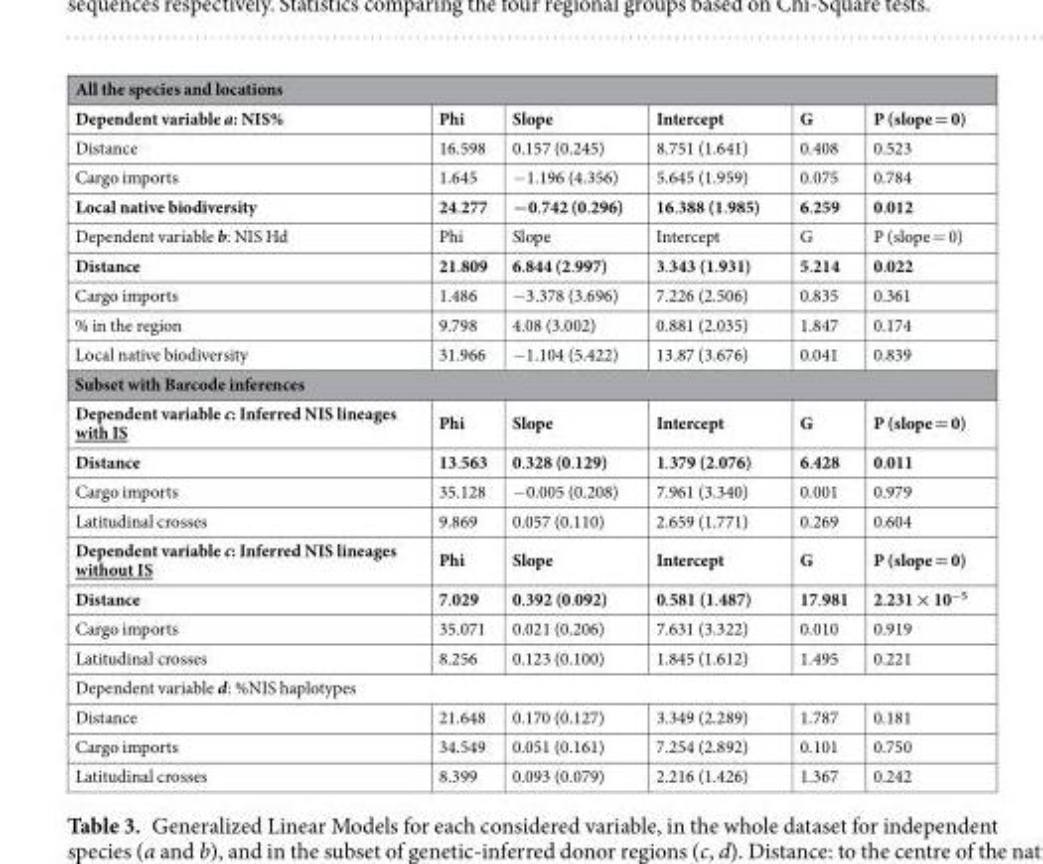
<table><thead><tr><td colspan="6">All the species and locations</td></tr><tr><td>Dependent variable a: NIS%</td><td>Phi</td><td>Slope</td><td>Intercept</td><td>G</td><td>P (slope = 0)</td></tr></thead><tbody><tr><td>Distance</td><td>16.598</td><td>0.157 (0.245)</td><td>8.751 (1.641)</td><td>0.408</td><td>0.523</td></tr><tr><td>Cargo imports</td><td>1.645</td><td>−1.196 (4.356)</td><td>5.645 (1.959)</td><td>0.075</td><td>0.784</td></tr><tr><td>Local native biodiversity</td><td>24.277</td><td>−0.742 (0.296)</td><td>16.388 (1.985)</td><td>6.259</td><td>0.012</td></tr><tr><td>Dependent variable b: NIS Hd</td><td>Phi</td><td>Slope</td><td>Intercept</td><td>G</td><td>P (slope = 0)</td></tr><tr><td>Distance</td><td>21.809</td><td>6.844 (2.997)</td><td>3.343 (1.931)</td><td>5.214</td><td>0.022</td></tr><tr><td>Cargo imports</td><td>1.486</td><td>−3.378 (3.696)</td><td>7.226 (2.506)</td><td>0.835</td><td>0.361</td></tr><tr><td>% in the region</td><td>9.798</td><td>4.08 (3.002)</td><td>0.881 (2.035)</td><td>1.847</td><td>0.174</td></tr><tr><td>Local native biodiversity</td><td>31.966</td><td>−1.104 (5.422)</td><td>13.87 (3.676)</td><td>0.041</td><td>0.839</td></tr><tr><td colspan="6">Subset with Barcode inferences</td></tr><tr><td>Dependent variable c: Inferred NIS lineages with IS</td><td>Phi</td><td>Slope</td><td>Intercept</td><td>G</td><td>P (slope = 0)</td></tr><tr><td>Distance</td><td>13.563</td><td>0.328 (0.129)</td><td>1.379 (2.076)</td><td>6.428</td><td>0.011</td></tr><tr><td>Cargo imports</td><td>35.128</td><td>−0.005 (0.208)</td><td>7.961 (3.340)</td><td>0.001</td><td>0.979</td></tr><tr><td>Latitudinal crosses</td><td>9.869</td><td>0.057 (0.110)</td><td>2.659 (1.771)</td><td>0.269</td><td>0.604</td></tr><tr><td>Dependent variable c: Inferred NIS lineages without IS</td><td>Phi</td><td>Slope</td><td>Intercept</td><td>G</td><td>P (slope = 0)</td></tr><tr><td>Distance</td><td>7.029</td><td>0.392 (0.092)</td><td>0.581 (1.487)</td><td>17.981</td><td>2.231 × 10<sup>−5</sup></td></tr><tr><td>Cargo imports</td><td>35.071</td><td>0.021 (0.206)</td><td>7.631 (3.322)</td><td>0.010</td><td>0.919</td></tr><tr><td>Latitudinal crosses</td><td>8.256</td><td>0.123 (0.100)</td><td>1.845 (1.612)</td><td>1.495</td><td>0.221</td></tr><tr><td colspan="6">Dependent variable d: %NIS haplotypes</td></tr><tr><td>Distance</td><td>21.648</td><td>0.170 (0.127)</td><td>3.349 (2.289)</td><td>1.787</td><td>0.181</td></tr><tr><td>Cargo imports</td><td>34.549</td><td>0.051 (0.161)</td><td>7.254 (2.892)</td><td>0.101</td><td>0.750</td></tr><tr><td>Latitudinal crosses</td><td>8.399</td><td>0.093 (0.079)</td><td>2.216 (1.426)</td><td>1.367</td><td>0.242</td></tr></tbody></table>